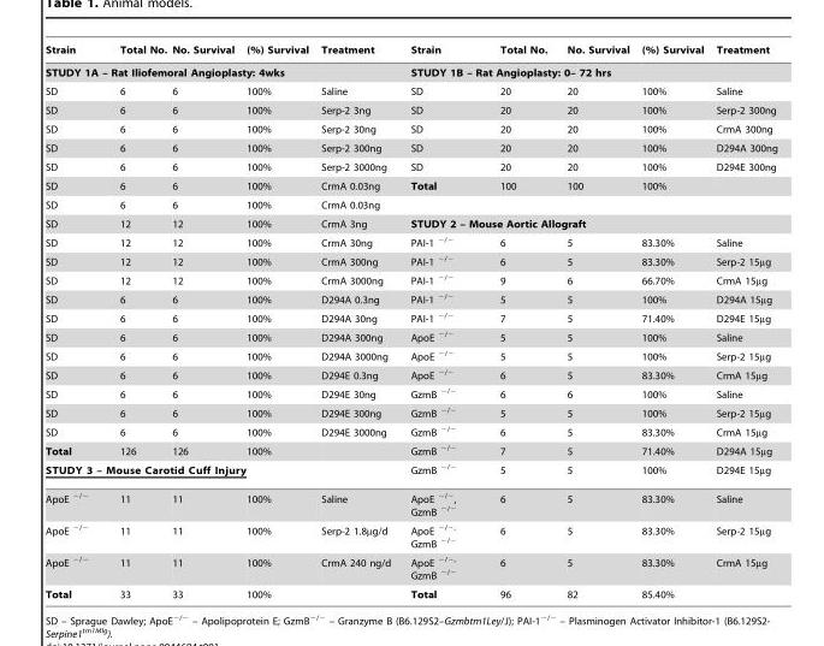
<table><thead><tr><td>Strain</td><td>Total No.</td><td>No. Survival</td><td>(%) Survival</td><td>Treatment</td><td>Strain</td><td>Total No.</td><td>No. Survival</td><td>(%) Survival</td><td>Treatment</td></tr></thead><tbody><tr><td colspan="5">STUDY 1A – Rat Iliofemoral Angioplasty: 4wks</td><td colspan="5">STUDY 1B – Rat Angioplasty: 0– 72 hrs</td></tr><tr><td>SD</td><td>6</td><td>6</td><td>100%</td><td>Saline</td><td>SD</td><td>20</td><td>20</td><td>100%</td><td>Saline</td></tr><tr><td>SD</td><td>6</td><td>6</td><td>100%</td><td>Serp-2 3ng</td><td>SD</td><td>20</td><td>20</td><td>100%</td><td>Serp-2 300ng</td></tr><tr><td>SD</td><td>6</td><td>6</td><td>100%</td><td>Serp-2 30ng</td><td>SD</td><td>20</td><td>20</td><td>100%</td><td>CrmA 300ng</td></tr><tr><td>SD</td><td>6</td><td>6</td><td>100%</td><td>Serp-2 300ng</td><td>SD</td><td>20</td><td>20</td><td>100%</td><td>D294A 300ng</td></tr><tr><td>SD</td><td>6</td><td>6</td><td>100%</td><td>Serp-2 3000ng</td><td>SD</td><td>20</td><td>20</td><td>100%</td><td>D294E 300ng</td></tr><tr><td>SD</td><td>6</td><td>6</td><td>100%</td><td>CrmA 0.03ng</td><td>Total</td><td>100</td><td>100</td><td>100%</td><td></td></tr><tr><td>SD</td><td>6</td><td>6</td><td>100%</td><td>CrmA 0.03ng</td><td></td><td></td><td></td><td></td><td></td></tr><tr><td>SD</td><td>12</td><td>12</td><td>100%</td><td>CrmA 3ng</td><td colspan="5">STUDY 2 – Mouse Aortic Allograft</td></tr><tr><td>SD</td><td>12</td><td>12</td><td>100%</td><td>CrmA 30ng</td><td>PAI-1 <sup>−/−</sup></td><td>6</td><td>5</td><td>83.30%</td><td>Saline</td></tr><tr><td>SD</td><td>12</td><td>12</td><td>100%</td><td>CrmA 300ng</td><td>PAI-1 <sup>−/−</sup></td><td>6</td><td>5</td><td>83.30%</td><td>Serp-2 15µg</td></tr><tr><td>SD</td><td>12</td><td>12</td><td>100%</td><td>CrmA 3000ng</td><td>PAI-1 <sup>−/−</sup></td><td>9</td><td>6</td><td>66.70%</td><td>CrmA 15µg</td></tr><tr><td>SD</td><td>6</td><td>6</td><td>100%</td><td>D294A 0.3ng</td><td>PAI-1 <sup>−/−</sup></td><td>5</td><td>5</td><td>100%</td><td>D294A 15µg</td></tr><tr><td>SD</td><td>6</td><td>6</td><td>100%</td><td>D294A 30ng</td><td>PAI-1 <sup>−/−</sup></td><td>7</td><td>5</td><td>71.40%</td><td>D294E 15µg</td></tr><tr><td>SD</td><td>6</td><td>6</td><td>100%</td><td>D294A 300ng</td><td>ApoE <sup>−/−</sup></td><td>5</td><td>5</td><td>100%</td><td>Saline</td></tr><tr><td>SD</td><td>6</td><td>6</td><td>100%</td><td>D294A 3000ng</td><td>ApoE <sup>−/−</sup></td><td>5</td><td>5</td><td>100%</td><td>Serp-2 15µg</td></tr><tr><td>SD</td><td>6</td><td>6</td><td>100%</td><td>D294E 0.3ng</td><td>ApoE <sup>−/−</sup></td><td>6</td><td>5</td><td>83.30%</td><td>CrmA 15µg</td></tr><tr><td>SD</td><td>6</td><td>6</td><td>100%</td><td>D294E 30ng</td><td>GzmB <sup>−/−</sup></td><td>6</td><td>6</td><td>100%</td><td>Saline</td></tr><tr><td>SD</td><td>6</td><td>6</td><td>100%</td><td>D294E 300ng</td><td>GzmB <sup>−/−</sup></td><td>5</td><td>5</td><td>100%</td><td>Serp-2 15µg</td></tr><tr><td>SD</td><td>6</td><td>6</td><td>100%</td><td>D294E 3000ng</td><td>GzmB <sup>−/−</sup></td><td>6</td><td>5</td><td>83.30%</td><td>CrmA 15µg</td></tr><tr><td>Total</td><td>126</td><td>126</td><td>100%</td><td></td><td>GzmB <sup>−/−</sup></td><td>7</td><td>5</td><td>71.40%</td><td>D294A 15µg</td></tr><tr><td colspan="5">STUDY 3 – Mouse Carotid Cuff Injury</td><td>GzmB <sup>−/−</sup></td><td>5</td><td>5</td><td>100%</td><td>D294E 15µg</td></tr><tr><td>ApoE <sup>−/−</sup></td><td>11</td><td>11</td><td>100%</td><td>Saline</td><td>ApoE <sup>−/−</sup>, GzmB <sup>−/−</sup></td><td>6</td><td>5</td><td>83.30%</td><td>Saline</td></tr><tr><td>ApoE <sup>−/−</sup></td><td>11</td><td>11</td><td>100%</td><td>Serp-2 1.8µg/d</td><td>ApoE <sup>−/−,</sup> GzmB <sup>−/−</sup></td><td>6</td><td>5</td><td>83.30%</td><td>Serp-2 15µg</td></tr><tr><td>ApoE <sup>−/−</sup></td><td>11</td><td>11</td><td>100%</td><td>CrmA 240 ng/d</td><td>ApoE <sup>−/−,</sup> GzmB <sup>−/−</sup></td><td>6</td><td>5</td><td>83.30%</td><td>CrmA 15µg</td></tr><tr><td>Total</td><td>33</td><td>33</td><td>100%</td><td></td><td>Total</td><td>96</td><td>82</td><td>85.40%</td><td></td></tr></tbody></table>